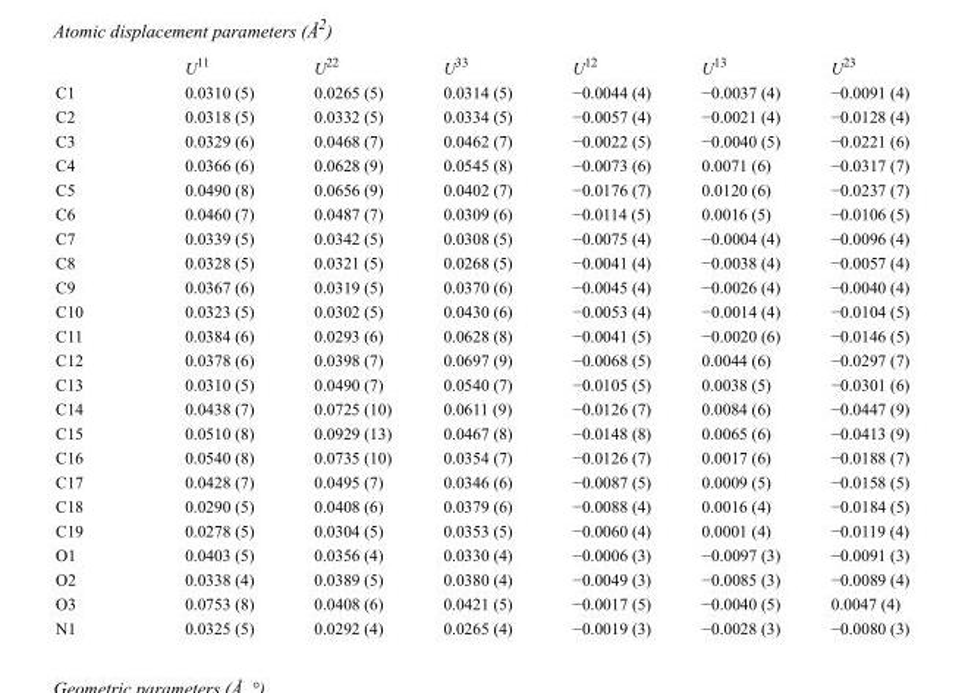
<table><thead><tr><td></td><td>U<sup>11</sup></td><td>U<sup>22</sup></td><td>U<sup>33</sup></td><td>U<sup>12</sup></td><td>U<sup>13</sup></td><td>U<sup>23</sup></td></tr></thead><tbody><tr><td>C1</td><td>0.0310 (5)</td><td>0.0265 (5)</td><td>0.0314 (5)</td><td>−0.0044 (4)</td><td>−0.0037 (4)</td><td>−0.0091 (4)</td></tr><tr><td>C2</td><td>0.0318 (5)</td><td>0.0332 (5)</td><td>0.0334 (5)</td><td>−0.0057 (4)</td><td>−0.0021 (4)</td><td>−0.0128 (4)</td></tr><tr><td>C3</td><td>0.0329 (6)</td><td>0.0468 (7)</td><td>0.0462 (7)</td><td>−0.0022 (5)</td><td>−0.0040 (5)</td><td>−0.0221 (6)</td></tr><tr><td>C4</td><td>0.0366 (6)</td><td>0.0628 (9)</td><td>0.0545 (8)</td><td>−0.0073 (6)</td><td>0.0071 (6)</td><td>−0.0317 (7)</td></tr><tr><td>C5</td><td>0.0490 (8)</td><td>0.0656 (9)</td><td>0.0402 (7)</td><td>−0.0176 (7)</td><td>0.0120 (6)</td><td>−0.0237 (7)</td></tr><tr><td>C6</td><td>0.0460 (7)</td><td>0.0487 (7)</td><td>0.0309 (6)</td><td>−0.0114 (5)</td><td>0.0016 (5)</td><td>−0.0106 (5)</td></tr><tr><td>C7</td><td>0.0339 (5)</td><td>0.0342 (5)</td><td>0.0308 (5)</td><td>−0.0075 (4)</td><td>−0.0004 (4)</td><td>−0.0096 (4)</td></tr><tr><td>C8</td><td>0.0328 (5)</td><td>0.0321 (5)</td><td>0.0268 (5)</td><td>−0.0041 (4)</td><td>−0.0038 (4)</td><td>−0.0057 (4)</td></tr><tr><td>C9</td><td>0.0367 (6)</td><td>0.0319 (5)</td><td>0.0370 (6)</td><td>−0.0045 (4)</td><td>−0.0026 (4)</td><td>−0.0040 (4)</td></tr><tr><td>C10</td><td>0.0323 (5)</td><td>0.0302 (5)</td><td>0.0430 (6)</td><td>−0.0053 (4)</td><td>−0.0014 (4)</td><td>−0.0104 (5)</td></tr><tr><td>C11</td><td>0.0384 (6)</td><td>0.0293 (6)</td><td>0.0628 (8)</td><td>−0.0041 (5)</td><td>−0.0020 (6)</td><td>−0.0146 (5)</td></tr><tr><td>C12</td><td>0.0378 (6)</td><td>0.0398 (7)</td><td>0.0697 (9)</td><td>−0.0068 (5)</td><td>0.0044 (6)</td><td>−0.0297 (7)</td></tr><tr><td>C13</td><td>0.0310 (5)</td><td>0.0490 (7)</td><td>0.0540 (7)</td><td>−0.0105 (5)</td><td>0.0038 (5)</td><td>−0.0301 (6)</td></tr><tr><td>C14</td><td>0.0438 (7)</td><td>0.0725 (10)</td><td>0.0611 (9)</td><td>−0.0126 (7)</td><td>0.0084 (6)</td><td>−0.0447 (9)</td></tr><tr><td>C15</td><td>0.0510 (8)</td><td>0.0929 (13)</td><td>0.0467 (8)</td><td>−0.0148 (8)</td><td>0.0065 (6)</td><td>−0.0413 (9)</td></tr><tr><td>C16</td><td>0.0540 (8)</td><td>0.0735 (10)</td><td>0.0354 (7)</td><td>−0.0126 (7)</td><td>0.0017 (6)</td><td>−0.0188 (7)</td></tr><tr><td>C17</td><td>0.0428 (7)</td><td>0.0495 (7)</td><td>0.0346 (6)</td><td>−0.0087 (5)</td><td>0.0009 (5)</td><td>−0.0158 (5)</td></tr><tr><td>C18</td><td>0.0290 (5)</td><td>0.0408 (6)</td><td>0.0379 (6)</td><td>−0.0088 (4)</td><td>0.0016 (4)</td><td>−0.0184 (5)</td></tr><tr><td>C19</td><td>0.0278 (5)</td><td>0.0304 (5)</td><td>0.0353 (5)</td><td>−0.0060 (4)</td><td>0.0001 (4)</td><td>−0.0119 (4)</td></tr><tr><td>O1</td><td>0.0403 (5)</td><td>0.0356 (4)</td><td>0.0330 (4)</td><td>−0.0006 (3)</td><td>−0.0097 (3)</td><td>−0.0091 (3)</td></tr><tr><td>O2</td><td>0.0338 (4)</td><td>0.0389 (5)</td><td>0.0380 (4)</td><td>−0.0049 (3)</td><td>−0.0085 (3)</td><td>−0.0089 (4)</td></tr><tr><td>O3</td><td>0.0753 (8)</td><td>0.0408 (6)</td><td>0.0421 (5)</td><td>−0.0017 (5)</td><td>−0.0040 (5)</td><td>0.0047 (4)</td></tr><tr><td>N1</td><td>0.0325 (5)</td><td>0.0292 (4)</td><td>0.0265 (4)</td><td>−0.0019 (3)</td><td>−0.0028 (3)</td><td>−0.0080 (3)</td></tr></tbody></table>